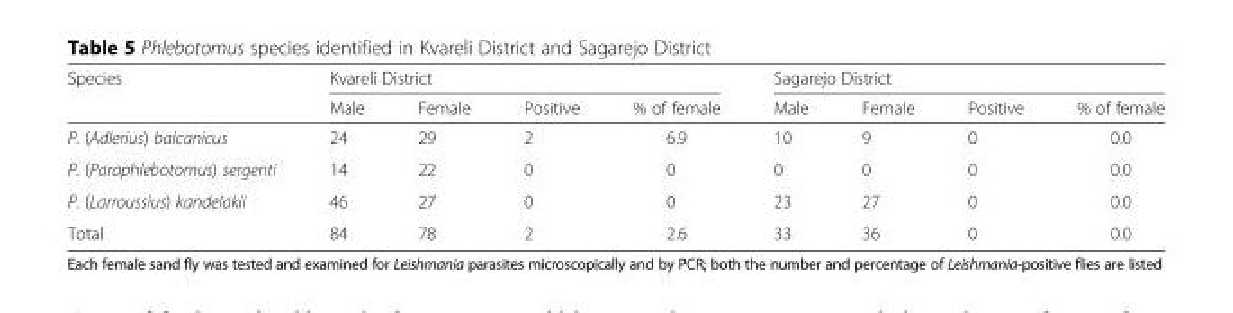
<table><thead><tr><td rowspan="2">Species</td><td colspan="4">Kvareli District</td><td colspan="4">Sagarejo District</td></tr><tr><td>Male</td><td>Female</td><td>Positive</td><td>% of female</td><td>Male</td><td>Female</td><td>Positive</td><td>% of female</td></tr></thead><tbody><tr><td>P. (Adlerius) balcanicus</td><td>24</td><td>29</td><td>2</td><td>6.9</td><td>10</td><td>9</td><td>0</td><td>0.0</td></tr><tr><td>P. (Paraphlebotomus) sergenti</td><td>14</td><td>22</td><td>0</td><td>0</td><td>0</td><td>0</td><td>0</td><td>0.0</td></tr><tr><td>P. (Larroussius) kandelakii</td><td>46</td><td>27</td><td>0</td><td>0</td><td>23</td><td>27</td><td>0</td><td>0.0</td></tr><tr><td>Total</td><td>84</td><td>78</td><td>2</td><td>2.6</td><td>33</td><td>36</td><td>0</td><td>0.0</td></tr></tbody></table>